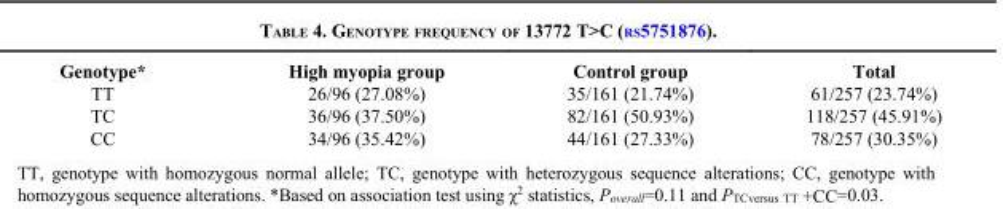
<table><thead><tr><td>Genotype*</td><td>High myopia group</td><td>Control group</td><td>Total</td></tr></thead><tbody><tr><td>TT</td><td>26/96 (27.08%)</td><td>35/161 (21.74%)</td><td>61/257 (23.74%)</td></tr><tr><td>TC</td><td>36/96 (37.50%)</td><td>82/161 (50.93%)</td><td>118/257 (45.91%)</td></tr><tr><td>CC</td><td>34/96 (35.42%)</td><td>44/161 (27.33%)</td><td>78/257 (30.35%)</td></tr></tbody></table>